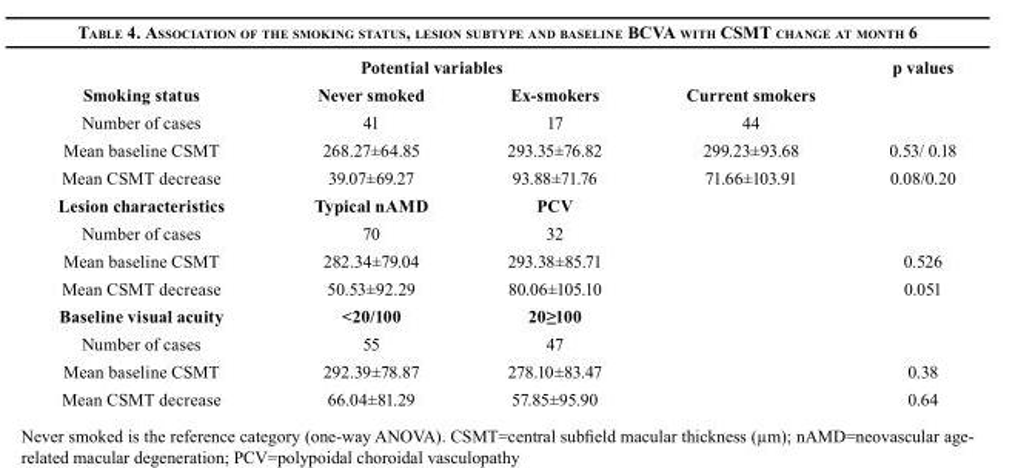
<table><tbody><tr><td colspan="4">Potential variables</td><td>p values</td></tr><tr><td>Smoking status</td><td>Never smoked</td><td>Ex-smokers</td><td>Current smokers</td><td></td></tr><tr><td>Number of cases</td><td>41</td><td>17</td><td>44</td><td></td></tr><tr><td>Mean baseline CSMT</td><td>268.27±64.85</td><td>293.35±76.82</td><td>299.23±93.68</td><td>0.53/ 0.18</td></tr><tr><td>Mean CSMT decrease</td><td>39.07±69.27</td><td>93.88±71.76</td><td>71.66±103.91</td><td>0.08/0.20</td></tr><tr><td>Lesion characteristics</td><td>Typical nAMD</td><td>PCV</td><td rowspan="4"></td><td></td></tr><tr><td>Number of cases</td><td>70</td><td>32</td><td></td></tr><tr><td>Mean baseline CSMT</td><td>282.34±79.04</td><td>293.38±85.71</td><td>0.526</td></tr><tr><td>Mean CSMT decrease</td><td>50.53±92.29</td><td>80.06±105.10</td><td>0.051</td></tr><tr><td>Baseline visual acuity</td><td>&lt;20/100</td><td>20≥100</td><td rowspan="4"></td><td></td></tr><tr><td>Number of cases</td><td>55</td><td>47</td><td></td></tr><tr><td>Mean baseline CSMT</td><td>292.39±78.87</td><td>278.10±83.47</td><td>0.38</td></tr><tr><td>Mean CSMT decrease</td><td>66.04±81.29</td><td>57.85±95.90</td><td>0.64</td></tr></tbody></table>